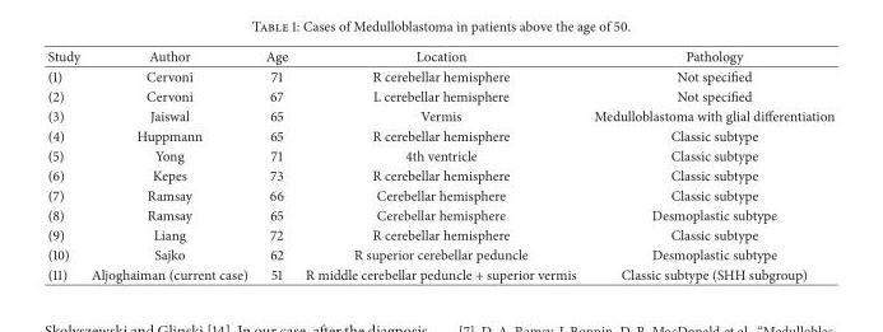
<table><thead><tr><td>Study</td><td>Author</td><td>Age</td><td>Location</td><td>Pathology</td></tr></thead><tbody><tr><td>(1)</td><td>Cervoni</td><td>71</td><td>R cerebellar hemisphere</td><td>Not specified</td></tr><tr><td>(2)</td><td>Cervoni</td><td>67</td><td>L cerebellar hemisphere</td><td>Not specified</td></tr><tr><td>(3)</td><td>Jaiswal</td><td>65</td><td>Vermis</td><td>Medulloblastoma with glial differentiation</td></tr><tr><td>(4)</td><td>Huppmann</td><td>65</td><td>R cerebellar hemisphere</td><td>Classic subtype</td></tr><tr><td>(5)</td><td>Yong</td><td>71</td><td>4th ventricle</td><td>Classic subtype</td></tr><tr><td>(6)</td><td>Kepes</td><td>73</td><td>R cerebellar hemisphere</td><td>Classic subtype</td></tr><tr><td>(7)</td><td>Ramsay</td><td>66</td><td>Cerebellar hemisphere</td><td>Classic subtype</td></tr><tr><td>(8)</td><td>Ramsay</td><td>65</td><td>Cerebellar hemisphere</td><td>Desmoplastic subtype</td></tr><tr><td>(9)</td><td>Liang</td><td>72</td><td>R cerebellar hemisphere</td><td>Classic subtype</td></tr><tr><td>(10)</td><td>Sajko</td><td>62</td><td>R superior cerebellar peduncle</td><td>Desmoplastic subtype</td></tr><tr><td>(11)</td><td>Aljoghaiman (current case)</td><td>51</td><td>R middle cerebellar peduncle + superior vermis</td><td>Classic subtype (SHH subgroup)</td></tr></tbody></table>